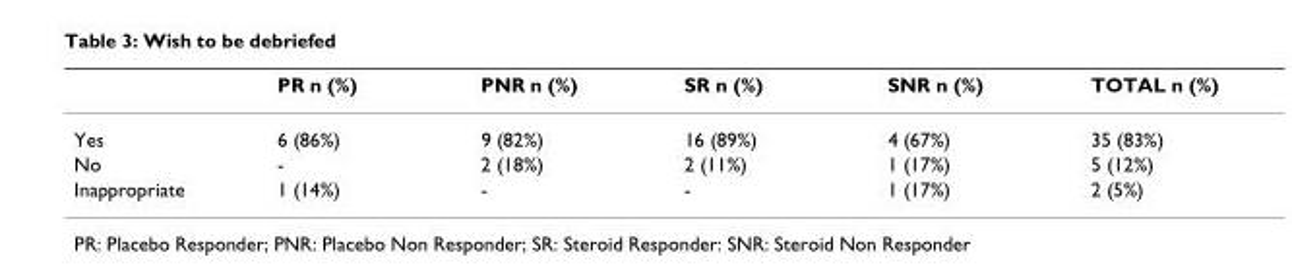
<table><thead><tr><td></td><td>PR n (%)</td><td>PNR n (%)</td><td>SR n (%)</td><td>SNR n (%)</td><td>TOTAL n (%)</td></tr></thead><tbody><tr><td>Yes</td><td>6 (86%)</td><td>9 (82%)</td><td>16 (89%)</td><td>4 (67%)</td><td>35 (83%)</td></tr><tr><td>No</td><td>-</td><td>2 (18%)</td><td>2 (11%)</td><td>1 (17%)</td><td>5 (12%)</td></tr><tr><td>Inappropriate</td><td>1 (14%)</td><td>-</td><td>-</td><td>1 (17%)</td><td>2 (5%)</td></tr></tbody></table>